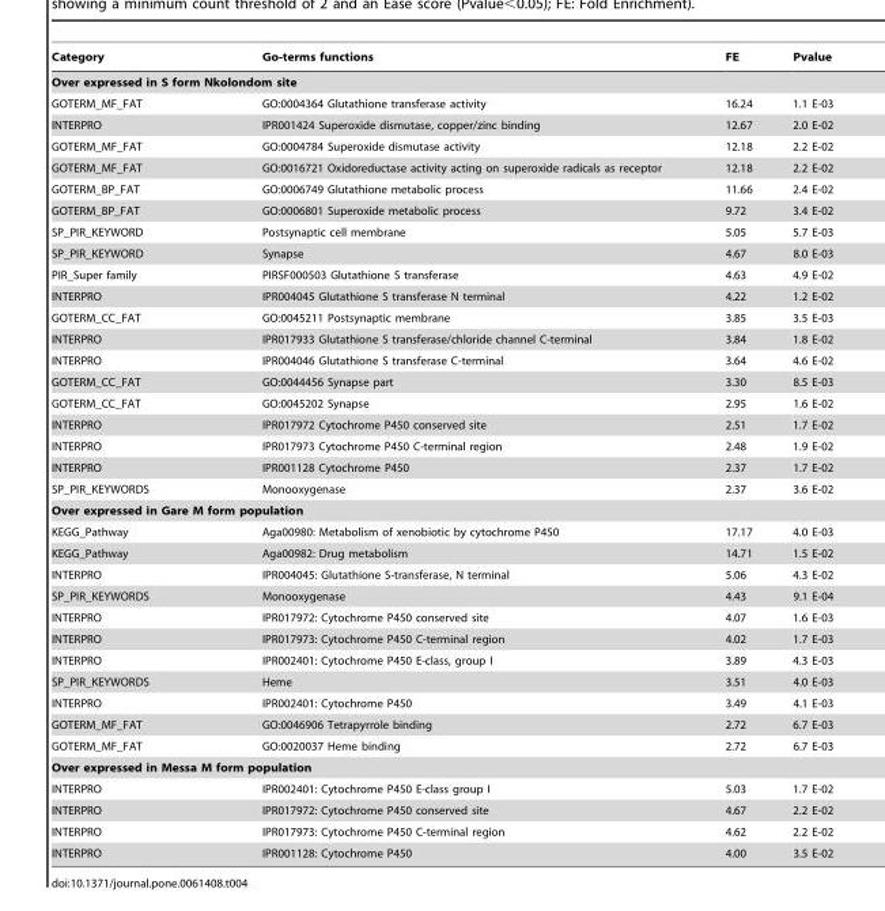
<table><thead><tr><td>Category</td><td>Go-terms functions</td><td>FE</td><td>Pvalue</td></tr></thead><tbody><tr><td colspan="4">Over expressed in S form Nkolondom site</td></tr><tr><td>GOTERM_MF_FAT</td><td>GO:0004364 Glutathione transferase activity</td><td>16.24</td><td>1.1 E-03</td></tr><tr><td>INTERPRO</td><td>IPR001424 Superoxide dismutase, copper/zinc binding</td><td>12.67</td><td>2.0 E-02</td></tr><tr><td>GOTERM_MF_FAT</td><td>GO:0004784 Superoxide dismutase activity</td><td>12.18</td><td>2.2 E-02</td></tr><tr><td>GOTERM_MF_FAT</td><td>GO:0016721 Oxidoreductase activity acting on superoxide radicals as receptor</td><td>12.18</td><td>2.2 E-02</td></tr><tr><td>GOTERM_BP_FAT</td><td>GO:0006749 Glutathione metabolic process</td><td>11.66</td><td>2.4 E-02</td></tr><tr><td>GOTERM_BP_FAT</td><td>GO:0006801 Superoxide metabolic process</td><td>9.72</td><td>3.4 E-02</td></tr><tr><td>SP_PIR_KEYWORD</td><td>Postsynaptic cell membrane</td><td>5.05</td><td>5.7 E-03</td></tr><tr><td>SP_PIR_KEYWORD</td><td>Synapse</td><td>4.67</td><td>8.0 E-03</td></tr><tr><td>PIR_Super family</td><td>PIRSF000503 Glutathione S transferase</td><td>4.63</td><td>4.9 E-02</td></tr><tr><td>INTERPRO</td><td>IPR004045 Glutathione S transferase N terminal</td><td>4.22</td><td>1.2 E-02</td></tr><tr><td>GOTERM_CC_FAT</td><td>GO:0045211 Postsynaptic membrane</td><td>3.85</td><td>3.5 E-03</td></tr><tr><td>INTERPRO</td><td>IPR017933 Glutathione S transferase/chloride channel C-terminal</td><td>3.84</td><td>1.8 E-02</td></tr><tr><td>INTERPRO</td><td>IPR004046 Glutathione S transferase C-terminal</td><td>3.64</td><td>4.6 E-02</td></tr><tr><td>GOTERM_CC_FAT</td><td>GO:0044456 Synapse part</td><td>3.30</td><td>8.5 E-03</td></tr><tr><td>GOTERM_CC_FAT</td><td>GO:0045202 Synapse</td><td>2.95</td><td>1.6 E-02</td></tr><tr><td>INTERPRO</td><td>IPR017972 Cytochrome P450 conserved site</td><td>2.51</td><td>1.7 E-02</td></tr><tr><td>INTERPRO</td><td>IPR017973 Cytochrome P450 C-terminal region</td><td>2.48</td><td>1.9 E-02</td></tr><tr><td>INTERPRO</td><td>IPR001128 Cytochrome P450</td><td>2.37</td><td>1.7 E-02</td></tr><tr><td>SP_PIR_KEYWORDS</td><td>Monooxygenase</td><td>2.37</td><td>3.6 E-02</td></tr><tr><td colspan="4">Over expressed in Gare M form population</td></tr><tr><td>KEGG_Pathway</td><td>Aga00980: Metabolism of xenobiotic by cytochrome P450</td><td>17.17</td><td>4.0 E-03</td></tr><tr><td>KEGG_Pathway</td><td>Aga00982: Drug metabolism</td><td>14.71</td><td>1.5 E-02</td></tr><tr><td>INTERPRO</td><td>IPR004045: Glutathione S-transferase, N terminal</td><td>5.06</td><td>4.3 E-02</td></tr><tr><td>SP_PIR_KEYWORDS</td><td>Monooxygenase</td><td>4.43</td><td>9.1 E-04</td></tr><tr><td>INTERPRO</td><td>IPR017972: Cytochrome P450 conserved site</td><td>4.07</td><td>1.6 E-03</td></tr><tr><td>INTERPRO</td><td>IPR017973: Cytochrome P450 C-terminal region</td><td>4.02</td><td>1.7 E-03</td></tr><tr><td>INTERPRO</td><td>IPR002401: Cytochrome P450 E-class, group I</td><td>3.89</td><td>4.3 E-03</td></tr><tr><td>SP_PIR_KEYWORDS</td><td>Heme</td><td>3.51</td><td>4.0 E-03</td></tr><tr><td>INTERPRO</td><td>IPR002401: Cytochrome P450</td><td>3.49</td><td>4.1 E-03</td></tr><tr><td>GOTERM_MF_FAT</td><td>GO:0046906 Tetrapyrrole binding</td><td>2.72</td><td>6.7 E-03</td></tr><tr><td>GOTERM_MF_FAT</td><td>GO:0020037 Heme binding</td><td>2.72</td><td>6.7 E-03</td></tr><tr><td colspan="4">Over expressed in Messa M form population</td></tr><tr><td>INTERPRO</td><td>IPR002401: Cytochrome P450 E-class group I</td><td>5.03</td><td>1.7 E-02</td></tr><tr><td>INTERPRO</td><td>IPR017972: Cytochrome P450 conserved site</td><td>4.67</td><td>2.2 E-02</td></tr><tr><td>INTERPRO</td><td>IPR017973: Cytochrome P450 C-terminal region</td><td>4.62</td><td>2.2 E-02</td></tr><tr><td>INTERPRO</td><td>IPR001128: Cytochrome P450</td><td>4.00</td><td>3.5 E-02</td></tr></tbody></table>